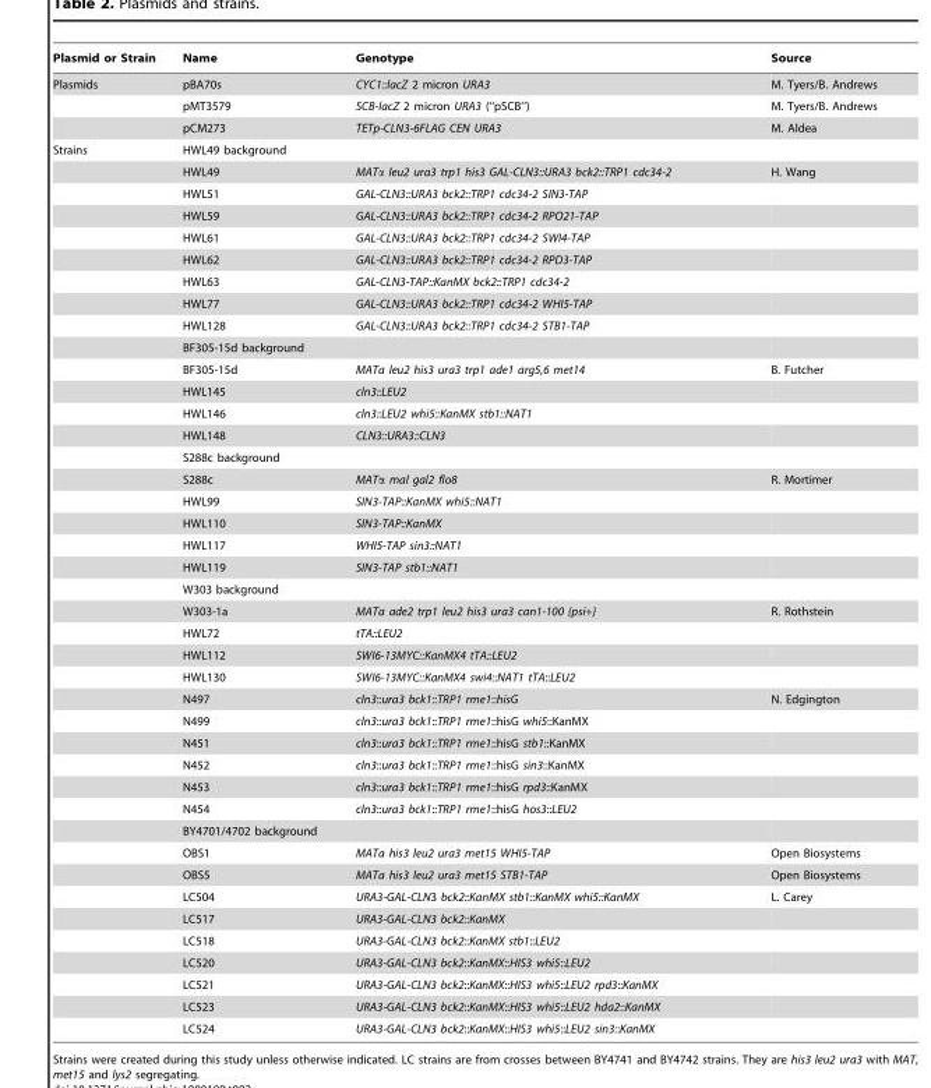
<table><thead><tr><td>Plasmid or Strain</td><td>Name</td><td>Genotype</td><td>Source</td></tr></thead><tbody><tr><td rowspan="3">Plasmids</td><td>pBA70s</td><td>CYC1::lacZ 2 micron URA3</td><td>M. Tyers/B. Andrews</td></tr><tr><td>pMT3579</td><td>SCB-lacZ 2 micron URA3 (‘‘pSCB’’)</td><td>M. Tyers/B. Andrews</td></tr><tr><td>pCM273</td><td>TETp-CLN3-6FLAG CEN URA3</td><td>M. Aldea</td></tr><tr><td rowspan="41">Strains</td><td>HWL49 background</td><td></td><td></td></tr><tr><td>HWL49</td><td>MATα leu2 ura3 trp1 his3 GAL-CLN3::URA3 bck2::TRP1 cdc34-2</td><td>H. Wang</td></tr><tr><td>HWL51</td><td>GAL-CLN3::URA3 bck2::TRP1 cdc34-2 SIN3-TAP</td><td></td></tr><tr><td>HWL59</td><td>GAL-CLN3::URA3 bck2::TRP1 cdc34-2 RPO21-TAP</td><td></td></tr><tr><td>HWL61</td><td>GAL-CLN3::URA3 bck2::TRP1 cdc34-2 SWI4-TAP</td><td></td></tr><tr><td>HWL62</td><td>GAL-CLN3::URA3 bck2::TRP1 cdc34-2 RPD3-TAP</td><td></td></tr><tr><td>HWL63</td><td>GAL-CLN3-TAP::KanMX bck2::TRP1 cdc34-2</td><td></td></tr><tr><td>HWL77</td><td>GAL-CLN3::URA3 bck2::TRP1 cdc34-2 WHI5-TAP</td><td></td></tr><tr><td>HWL128</td><td>GAL-CLN3::URA3 bck2::TRP1 cdc34-2 STB1-TAP</td><td></td></tr><tr><td>BF305-15d background</td><td></td><td></td></tr><tr><td>BF305-15d</td><td>MATa leu2 his3 ura3 trp1 ade1 arg5,6 met14</td><td>B. Futcher</td></tr><tr><td>HWL145</td><td>cln3::LEU2</td><td></td></tr><tr><td>HWL146</td><td>cln3::LEU2 whi5::KanMX stb1::NAT1</td><td></td></tr><tr><td>HWL148</td><td>CLN3::URA3::CLN3</td><td></td></tr><tr><td>S288c background</td><td></td><td></td></tr><tr><td>S288c</td><td>MATα mal gal2 flo8</td><td>R. Mortimer</td></tr><tr><td>HWL99</td><td>SIN3-TAP::KanMX whi5::NAT1</td><td></td></tr><tr><td>HWL110</td><td>SIN3-TAP::KanMX</td><td></td></tr><tr><td>HWL117</td><td>WHI5-TAP sin3::NAT1</td><td></td></tr><tr><td>HWL119</td><td>SIN3-TAP stb1::NAT1</td><td></td></tr><tr><td>W303 background</td><td></td><td></td></tr><tr><td>W303-1a</td><td>MATa ade2 trp1 leu2 his3 ura3 can1-100 {psi+}</td><td>R. Rothstein</td></tr><tr><td>HWL72</td><td>tTA::LEU2</td><td></td></tr><tr><td>HWL112</td><td>SWI6-13MYC::KanMX4 tTA::LEU2</td><td></td></tr><tr><td>HWL130</td><td>SWI6-13MYC::KanMX4 swi4::NAT1 tTA::LEU2</td><td></td></tr><tr><td>N497</td><td>cln3::ura3 bck1::TRP1 rme1::hisG</td><td>N. Edgington</td></tr><tr><td>N499</td><td>cln3::ura3 bck1::TRP1 rme1::hisG whi5::KanMX</td><td></td></tr><tr><td>N451</td><td>cln3::ura3 bck1::TRP1 rme1::hisG stb1::KanMX</td><td></td></tr><tr><td>N452</td><td>cln3::ura3 bck1::TRP1 rme1::hisG sin3::KanMX</td><td></td></tr><tr><td>N453</td><td>cln3::ura3 bck1::TRP1 rme1::hisG rpd3::KanMX</td><td></td></tr><tr><td>N454</td><td>cln3::ura3 bck1::TRP1 rme1::hisG hos3::LEU2</td><td></td></tr><tr><td>BY4701/4702 background</td><td></td><td></td></tr><tr><td>OBS1</td><td>MATa his3 leu2 ura3 met15 WHI5-TAP</td><td>Open Biosystems</td></tr><tr><td>OBS5</td><td>MATa his3 leu2 ura3 met15 STB1-TAP</td><td>Open Biosystems</td></tr><tr><td>LC504</td><td>URA3-GAL-CLN3 bck2::KanMX stb1::KanMX whi5::KanMX</td><td>L. Carey</td></tr><tr><td>LC517</td><td>URA3-GAL-CLN3 bck2::KanMX</td><td></td></tr><tr><td>LC518</td><td>URA3-GAL-CLN3 bck2::KanMX stb1::LEU2</td><td></td></tr><tr><td>LC520</td><td>URA3-GAL-CLN3 bck2::KanMX::HIS3 whi5::LEU2</td><td></td></tr><tr><td>LC521</td><td>URA3-GAL-CLN3 bck2::KanMX::HIS3 whi5::LEU2 rpd3::KanMX</td><td></td></tr><tr><td>LC523</td><td>URA3-GAL-CLN3 bck2::KanMX::HIS3 whi5::LEU2 hda2::KanMX</td><td></td></tr><tr><td>LC524</td><td>URA3-GAL-CLN3 bck2::KanMX::HIS3 whi5::LEU2 sin3::KanMX</td><td></td></tr></tbody></table>